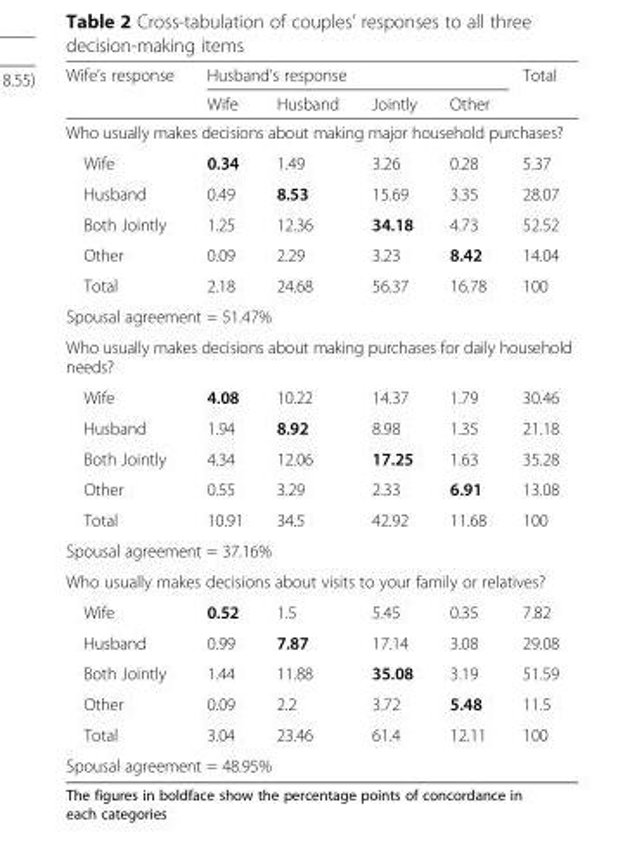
<table><thead><tr><td rowspan="2">Wife’s response</td><td colspan="4">Husband’s response</td><td rowspan="2">Total</td></tr><tr><td>Wife</td><td>Husband</td><td>Jointly</td><td>Other</td></tr></thead><tbody><tr><td colspan="6">Who usually makes decisions about making major household purchases?</td></tr><tr><td>Wife</td><td>0.34</td><td>1.49</td><td>3.26</td><td>0.28</td><td>5.37</td></tr><tr><td>Husband</td><td>0.49</td><td>8.53</td><td>15.69</td><td>3.35</td><td>28.07</td></tr><tr><td>Both Jointly</td><td>1.25</td><td>12.36</td><td>34.18</td><td>4.73</td><td>52.52</td></tr><tr><td>Other</td><td>0.09</td><td>2.29</td><td>3.23</td><td>8.42</td><td>14.04</td></tr><tr><td>Total</td><td>2.18</td><td>24.68</td><td>56.37</td><td>16.78</td><td>100</td></tr><tr><td colspan="6">Spousal agreement = 51.47%</td></tr><tr><td colspan="6">Who usually makes decisions about making purchases for daily household needs?</td></tr><tr><td>Wife</td><td>4.08</td><td>10.22</td><td>14.37</td><td>1.79</td><td>30.46</td></tr><tr><td>Husband</td><td>1.94</td><td>8.92</td><td>8.98</td><td>1.35</td><td>21.18</td></tr><tr><td>Both Jointly</td><td>4.34</td><td>12.06</td><td>17.25</td><td>1.63</td><td>35.28</td></tr><tr><td>Other</td><td>0.55</td><td>3.29</td><td>2.33</td><td>6.91</td><td>13.08</td></tr><tr><td>Total</td><td>10.91</td><td>34.5</td><td>42.92</td><td>11.68</td><td>100</td></tr><tr><td colspan="6">Spousal agreement = 37.16%</td></tr><tr><td colspan="6">Who usually makes decisions about visits to your family or relatives?</td></tr><tr><td>Wife</td><td>0.52</td><td>1.5</td><td>5.45</td><td>0.35</td><td>7.82</td></tr><tr><td>Husband</td><td>0.99</td><td>7.87</td><td>17.14</td><td>3.08</td><td>29.08</td></tr><tr><td>Both Jointly</td><td>1.44</td><td>11.88</td><td>35.08</td><td>3.19</td><td>51.59</td></tr><tr><td>Other</td><td>0.09</td><td>2.2</td><td>3.72</td><td>5.48</td><td>11.5</td></tr><tr><td>Total</td><td>3.04</td><td>23.46</td><td>61.4</td><td>12.11</td><td>100</td></tr><tr><td colspan="6">Spousal agreement = 48.95%</td></tr></tbody></table>